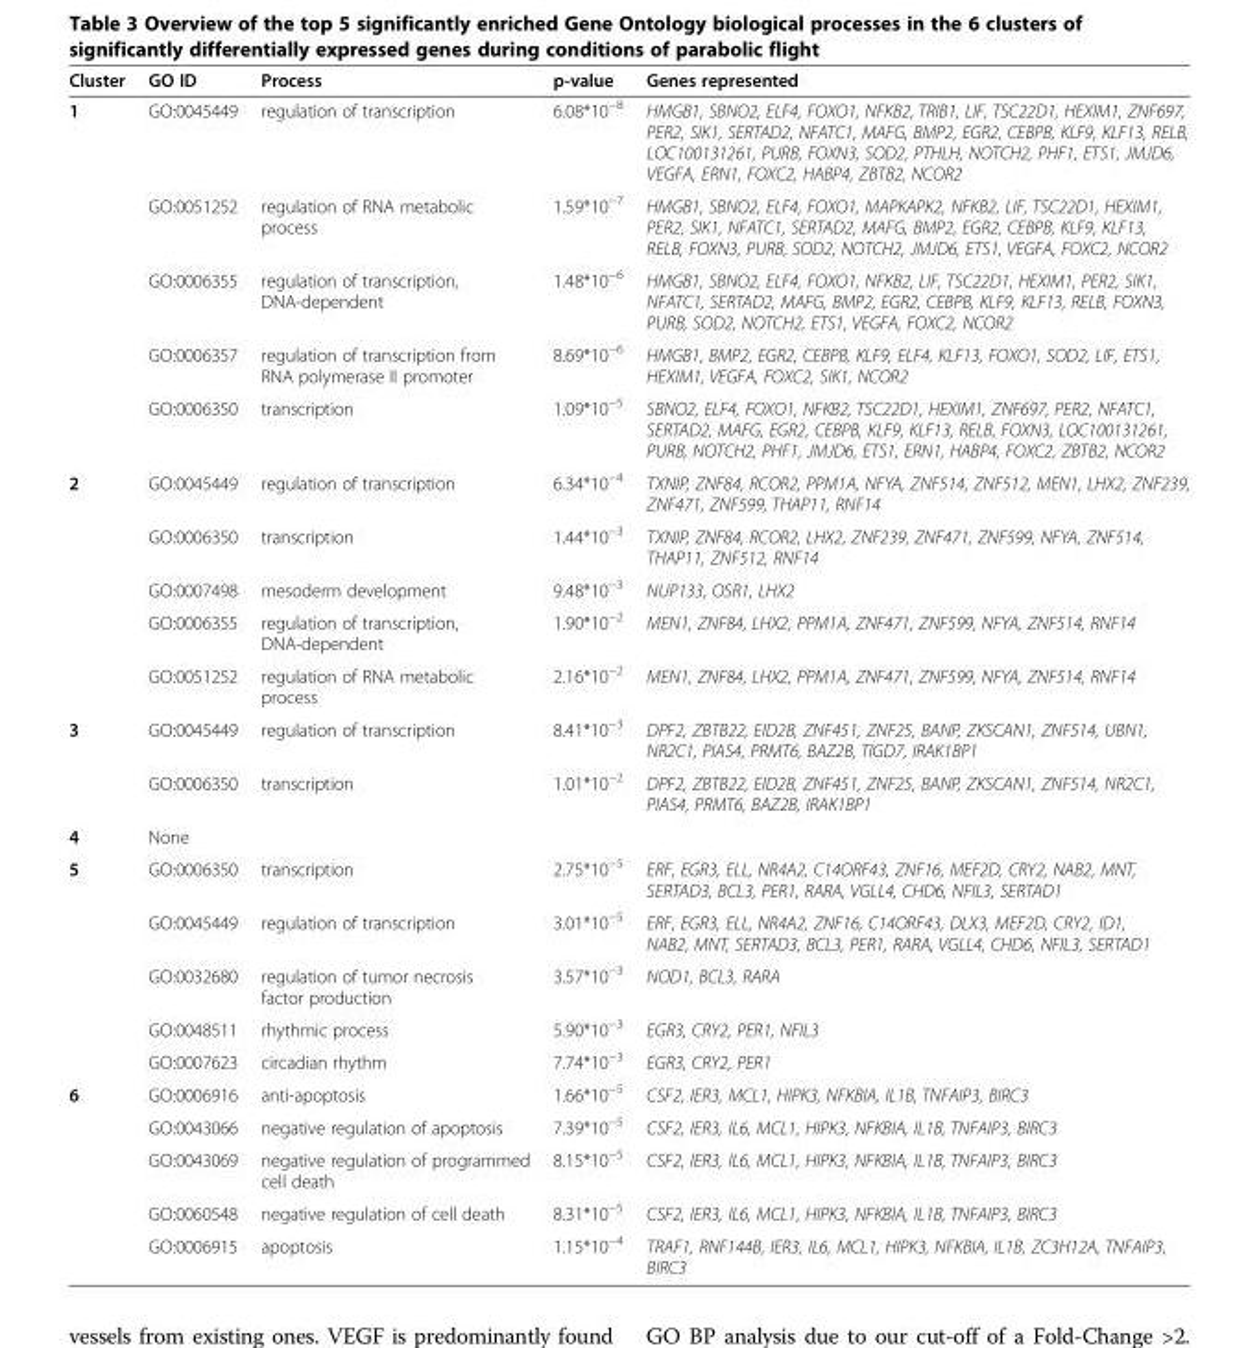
<table><thead><tr><td>Cluster</td><td>GO ID</td><td>Process</td><td>p-value</td><td>Genes represented</td></tr></thead><tbody><tr><td rowspan="5">1</td><td>GO:0045449</td><td>regulation of transcription</td><td>6.08*10<sup>−8</sup></td><td>HMGB1, SBNO2, ELF4, FOXO1, NFKB2, TRIB1, LIF, TSC22D1, HEXIM1, ZNF697, PER2, SIK1, SERTAD2, NFATC1, MAFG, BMP2, EGR2, CEBPB, KLF9, KLF13, RELB, LOC100131261, PURB, FOXN3, SOD2, PTHLH, NOTCH2, PHF1, ETS1, JMJD6, VEGFA, ERN1, FOXC2, HABP4, ZBTB2, NCOR2</td></tr><tr><td>GO:0051252</td><td>regulation of RNA metabolic process</td><td>1.59*10<sup>−7</sup></td><td>HMGB1, SBNO2, ELF4, FOXO1, MAPKAPK2, NFKB2, LIF, TSC22D1, HEXIM1, PER2, SIK1, NFATC1, SERTAD2, MAFG, BMP2, EGR2, CEBPB, KLF9, KLF13, RELB, FOXN3, PURB, SOD2, NOTCH2, JMJD6, ETS1, VEGFA, FOXC2, NCOR2</td></tr><tr><td>GO:0006355</td><td>regulation of transcription, DNA-dependent</td><td>1.48*10<sup>−6</sup></td><td>HMGB1, SBNO2, ELF4, FOXO1, NFKB2, LIF, TSC22D1, HEXIM1, PER2, SIK1, NFATC1, SERTAD2, MAFG, BMP2, EGR2, CEBPB, KLF9, KLF13, RELB, FOXN3, PURB, SOD2, NOTCH2, ETS1, VEGFA, FOXC2, NCOR2</td></tr><tr><td>GO:0006357</td><td>regulation of transcription from RNA polymerase II promoter</td><td>8.69*10<sup>−6</sup></td><td>HMGB1, BMP2, EGR2, CEBPB, KLF9, ELF4, KLF13, FOXO1, SOD2, LIF, ETS1, HEXIM1, VEGFA, FOXC2, SIK1, NCOR2</td></tr><tr><td>GO:0006350</td><td>transcription</td><td>1.09*10<sup>−5</sup></td><td>SBNO2, ELF4, FOXO1, NFKB2, TSC22D1, HEXIM1, ZNF697, PER2, NFATC1, SERTAD2, MAFG, EGR2, CEBPB, KLF9, KLF13, RELB, FOXN3, LOC100131261, PURB, NOTCH2, PHF1, JMJD6, ETS1, ERN1, HABP4, FOXC2, ZBTB2, NCOR2</td></tr><tr><td rowspan="5">2</td><td>GO:0045449</td><td>regulation of transcription</td><td>6.34*10<sup>−4</sup></td><td>TXNIP, ZNF84, RCOR2, PPM1A, NFYA, ZNF514, ZNF512, MEN1, LHX2, ZNF239, ZNF471, ZNF599, THAP11, RNF14</td></tr><tr><td>GO:0006350</td><td>transcription</td><td>1.44*10<sup>−3</sup></td><td>TXNIP, ZNF84, RCOR2, LHX2, ZNF239, ZNF471, ZNF599, NFYA, ZNF514, THAP11, ZNF512, RNF14</td></tr><tr><td>GO:0007498</td><td>mesoderm development</td><td>9.48*10<sup>−3</sup></td><td>NUP133, OSR1, LHX2</td></tr><tr><td>GO:0006355</td><td>regulation of transcription, DNA-dependent</td><td>1.90*10<sup>−2</sup></td><td>MEN1, ZNF84, LHX2, PPM1A, ZNF471, ZNF599, NFYA, ZNF514, RNF14</td></tr><tr><td>GO:0051252</td><td>regulation of RNA metabolic process</td><td>2.16*10<sup>−2</sup></td><td>MEN1, ZNF84, LHX2, PPM1A, ZNF471, ZNF599, NFYA, ZNF514, RNF14</td></tr><tr><td rowspan="2">3</td><td>GO:0045449</td><td>regulation of transcription</td><td>8.41*10<sup>−3</sup></td><td>DPF2, ZBTB22, EID2B, ZNF451, ZNF25, BANP, ZKSCAN1, ZNF514, UBN1, NR2C1, PIAS4, PRMT6, BAZ2B, TIGD7, IRAK1BP1</td></tr><tr><td>GO:0006350</td><td>transcription</td><td>1.01*10<sup>−2</sup></td><td>DPF2, ZBTB22, EID2B, ZNF451, ZNF25, BANP, ZKSCAN1, ZNF514, NR2C1, PIAS4, PRMT6, BAZ2B, IRAK1BP1</td></tr><tr><td>4</td><td>None</td><td></td><td></td><td></td></tr><tr><td rowspan="5">5</td><td>GO:0006350</td><td>transcription</td><td>2.75*10<sup>−5</sup></td><td>ERF, EGR3, ELL, NR4A2, C14ORF43, ZNF16, MEF2D, CRY2, NAB2, MNT, SERTAD3, BCL3, PER1, RARA, VGLL4, CHD6, NFIL3, SERTAD1</td></tr><tr><td>GO:0045449</td><td>regulation of transcription</td><td>3.01*10<sup>−5</sup></td><td>ERF, EGR3, ELL, NR4A2, ZNF16, C14ORF43, DLX3, MEF2D, CRY2, ID1, NAB2, MNT, SERTAD3, BCL3, PER1, RARA, VGLL4, CHD6, NFIL3, SERTAD1</td></tr><tr><td>GO:0032680</td><td>regulation of tumor necrosis factor production</td><td>3.57*10<sup>−3</sup></td><td>NOD1, BCL3, RARA</td></tr><tr><td>GO:0048511</td><td>rhythmic process</td><td>5.90*10<sup>−3</sup></td><td>EGR3, CRY2, PER1, NFIL3</td></tr><tr><td>GO:0007623</td><td>circadian rhythm</td><td>7.74*10<sup>−3</sup></td><td>EGR3, CRY2, PER1</td></tr><tr><td rowspan="5">6</td><td>GO:0006916</td><td>anti-apoptosis</td><td>1.66*10<sup>−5</sup></td><td>CSF2, IER3, MCL1, HIPK3, NFKBIA, IL1B, TNFAIP3, BIRC3</td></tr><tr><td>GO:0043066</td><td>negative regulation of apoptosis</td><td>7.39*10<sup>−5</sup></td><td>CSF2, IER3, IL6, MCL1, HIPK3, NFKBIA, IL1B, TNFAIP3, BIRC3</td></tr><tr><td>GO:0043069</td><td>negative regulation of programmed cell death</td><td>8.15*10<sup>−5</sup></td><td>CSF2, IER3, IL6, MCL1, HIPK3, NFKBIA, IL1B, TNFAIP3, BIRC3</td></tr><tr><td>GO:0060548</td><td>negative regulation of cell death</td><td>8.31*10<sup>−5</sup></td><td>CSF2, IER3, IL6, MCL1, HIPK3, NFKBIA, IL1B, TNFAIP3, BIRC3</td></tr><tr><td>GO:0006915</td><td>apoptosis</td><td>1.15*10<sup>−4</sup></td><td>TRAF1, RNF144B, IER3, IL6, MCL1, HIPK3, NFKBIA, IL1B, ZC3H12A, TNFAIP3, BIRC3</td></tr></tbody></table>